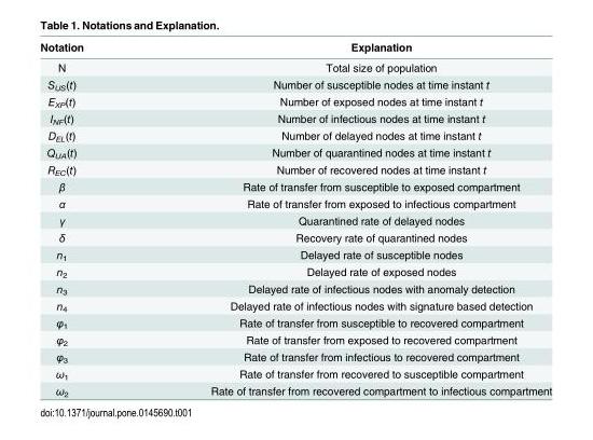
<table><thead><tr><td>Notation</td><td>Explanation</td></tr></thead><tbody><tr><td>N</td><td>Total size of population</td></tr><tr><td>S<sub>US</sub>(t)</td><td>Number of susceptible nodes at time instant t</td></tr><tr><td>E<sub>XP</sub>(t)</td><td>Number of exposed nodes at time instant t</td></tr><tr><td>I<sub>NF</sub>(t)</td><td>Number of infectious nodes at time instant t</td></tr><tr><td>D<sub>EL</sub>(t)</td><td>Number of delayed nodes at time instant t</td></tr><tr><td>Q<sub>UA</sub>(t)</td><td>Number of quarantined nodes at time instant t</td></tr><tr><td>R<sub>EC</sub>(t)</td><td>Number of recovered nodes at time instant t</td></tr><tr><td>β</td><td>Rate of transfer from susceptible to exposed compartment</td></tr><tr><td>α</td><td>Rate of transfer from exposed to infectious compartment</td></tr><tr><td>γ</td><td>Quarantined rate of delayed nodes</td></tr><tr><td>δ</td><td>Recovery rate of quarantined nodes</td></tr><tr><td>n<sub>1</sub></td><td>Delayed rate of susceptible nodes</td></tr><tr><td>n<sub>2</sub></td><td>Delayed rate of exposed nodes</td></tr><tr><td>n<sub>3</sub></td><td>Delayed rate of infectious nodes with anomaly detection</td></tr><tr><td>n<sub>4</sub></td><td>Delayed rate of infectious nodes with signature based detection</td></tr><tr><td>φ<sub>1</sub></td><td>Rate of transfer from susceptible to recovered compartment</td></tr><tr><td>φ<sub>2</sub></td><td>Rate of transfer from exposed to recovered compartment</td></tr><tr><td>φ<sub>3</sub></td><td>Rate of transfer from infectious to recovered compartment</td></tr><tr><td>ω<sub>1</sub></td><td>Rate of transfer from recovered to susceptible compartment</td></tr><tr><td>ω<sub>2</sub></td><td>Rate of transfer from recovered compartment to infectious compartment</td></tr></tbody></table>